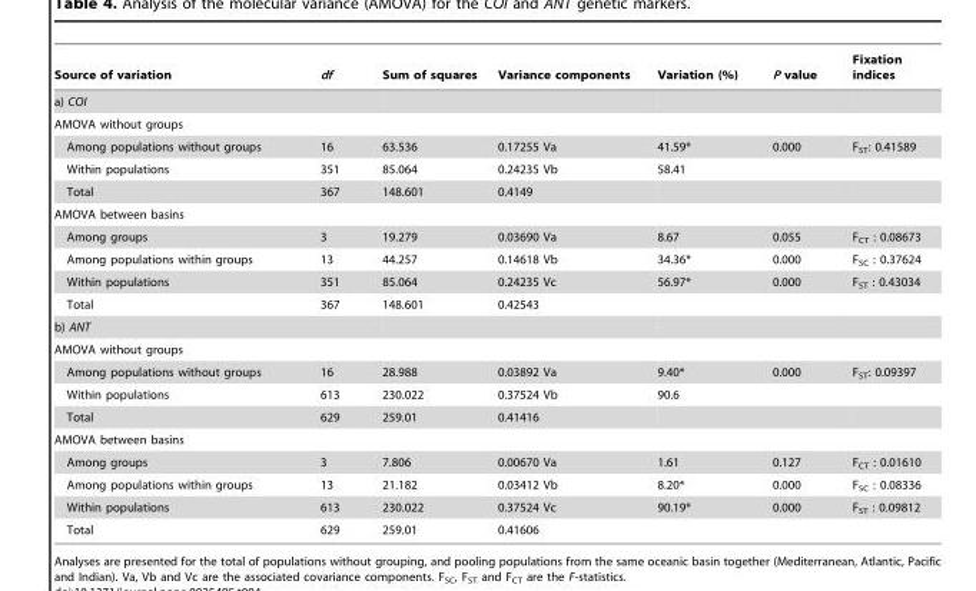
<table><thead><tr><td>Source of variation</td><td>df</td><td>Sum of squares</td><td>Variance components</td><td>Variation (%)</td><td>P value</td><td>Fixation indices</td></tr></thead><tbody><tr><td colspan="7">a) COI</td></tr><tr><td colspan="7">AMOVA without groups</td></tr><tr><td>Among populations without groups</td><td>16</td><td>63.536</td><td>0.17255 Va</td><td>41.59*</td><td>0.000</td><td>F<sub>ST</sub>: 0.41589</td></tr><tr><td>Within populations</td><td>351</td><td>85.064</td><td>0.24235 Vb</td><td>58.41</td><td></td><td></td></tr><tr><td>Total</td><td>367</td><td>148.601</td><td>0.4149</td><td></td><td></td><td></td></tr><tr><td colspan="7">AMOVA between basins</td></tr><tr><td>Among groups</td><td>3</td><td>19.279</td><td>0.03690 Va</td><td>8.67</td><td>0.055</td><td>F<sub>CT</sub> : 0.08673</td></tr><tr><td>Among populations within groups</td><td>13</td><td>44.257</td><td>0.14618 Vb</td><td>34.36*</td><td>0.000</td><td>F<sub>SC</sub> : 0.37624</td></tr><tr><td>Within populations</td><td>351</td><td>85.064</td><td>0.24235 Vc</td><td>56.97*</td><td>0.000</td><td>F<sub>ST</sub> : 0.43034</td></tr><tr><td>Total</td><td>367</td><td>148.601</td><td>0.42543</td><td></td><td></td><td></td></tr><tr><td colspan="7">b) ANT</td></tr><tr><td colspan="7">AMOVA without groups</td></tr><tr><td>Among populations without groups</td><td>16</td><td>28.988</td><td>0.03892 Va</td><td>9.40*</td><td>0.000</td><td>F<sub>ST</sub>: 0.09397</td></tr><tr><td>Within populations</td><td>613</td><td>230.022</td><td>0.37524 Vb</td><td>90.6</td><td></td><td></td></tr><tr><td>Total</td><td>629</td><td>259.01</td><td>0.41416</td><td></td><td></td><td></td></tr><tr><td colspan="7">AMOVA between basins</td></tr><tr><td>Among groups</td><td>3</td><td>7.806</td><td>0.00670 Va</td><td>1.61</td><td>0.127</td><td>F<sub>CT</sub> : 0.01610</td></tr><tr><td>Among populations within groups</td><td>13</td><td>21.182</td><td>0.03412 Vb</td><td>8.20*</td><td>0.000</td><td>F<sub>SC</sub> : 0.08336</td></tr><tr><td>Within populations</td><td>613</td><td>230.022</td><td>0.37524 Vc</td><td>90.19*</td><td>0.000</td><td>F<sub>ST</sub> : 0.09812</td></tr><tr><td>Total</td><td>629</td><td>259.01</td><td>0.41606</td><td></td><td></td><td></td></tr></tbody></table>